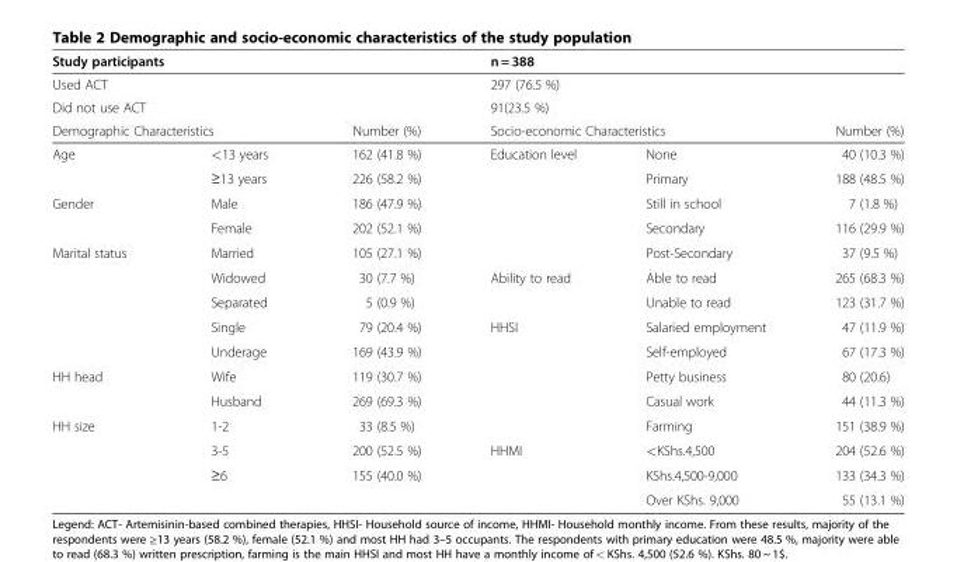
<table><thead><tr><td rowspan="3" colspan="3">Study participants Used ACT Did not use ACT</td><td rowspan="3" colspan="3">n = 388 297 (76.5 %) 91(23.5 %)</td></tr><tr></tr><tr></tr><tr><td colspan="2">Demographic Characteristics</td><td rowspan="2">Number (%) 162 (41.8 %)</td><td colspan="2">Socio-economic Characteristics</td><td rowspan="2">Number (%) 40 (10.3 %)</td></tr><tr><td>Age</td><td>&lt;13 years</td><td>Education level</td><td>None</td></tr></thead><tbody><tr><td></td><td>≥13 years</td><td>226 (58.2 %)</td><td></td><td>Primary</td><td>188 (48.5 %)</td></tr><tr><td rowspan="2">Gender</td><td>Male</td><td>186 (47.9 %)</td><td></td><td>Still in school</td><td>7 (1.8 %)</td></tr><tr><td>Female</td><td>202 (52.1 %)</td><td></td><td>Secondary</td><td>116 (29.9 %)</td></tr><tr><td rowspan="5">Marital status</td><td>Married</td><td>105 (27.1 %)</td><td></td><td>Post-Secondary</td><td>37 (9.5 %)</td></tr><tr><td>Widowed</td><td>30 (7.7 %)</td><td>Ability to read</td><td>Able to read</td><td>265 (68.3 %)</td></tr><tr><td>Separated</td><td>5 (0.9 %)</td><td></td><td>Unable to read</td><td>123 (31.7 %)</td></tr><tr><td>Single</td><td>79 (20.4 %)</td><td>HHSI</td><td>Salaried employment</td><td>47 (11.9 %)</td></tr><tr><td>Underage</td><td>169 (43.9 %)</td><td></td><td>Self-employed</td><td>67 (17.3 %)</td></tr><tr><td rowspan="2">HH head</td><td>Wife</td><td>119 (30.7 %)</td><td></td><td>Petty business</td><td>80 (20.6)</td></tr><tr><td>Husband</td><td>269 (69.3 %)</td><td></td><td>Casual work</td><td>44 (11.3 %)</td></tr><tr><td rowspan="4">HH size</td><td>1-2</td><td>33 (8.5 %)</td><td></td><td>Farming</td><td>151 (38.9 %)</td></tr><tr><td>3-5</td><td>200 (52.5 %)</td><td>HHMI</td><td>&lt;KShs.4,500</td><td>204 (52.6 %)</td></tr><tr><td>≥6</td><td>155 (40.0 %)</td><td></td><td>KShs.4,500-9,000</td><td>133 (34.3 %)</td></tr><tr><td></td><td></td><td></td><td>Over KShs. 9,000</td><td>55 (13.1 %)</td></tr></tbody></table>